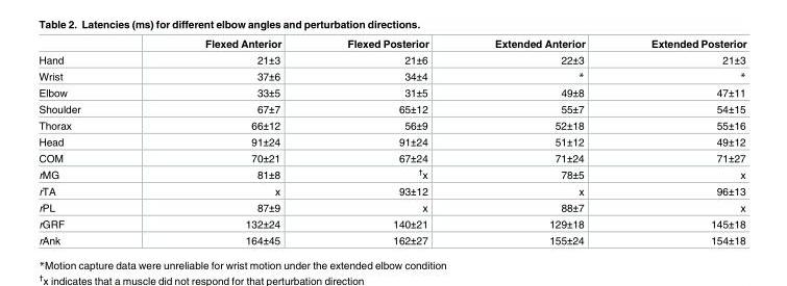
<table><thead><tr><td></td><td>Flexed Anterior</td><td>Flexed Posterior</td><td>Extended Anterior</td><td>Extended Posterior</td></tr></thead><tbody><tr><td>Hand</td><td>21±3</td><td>21±6</td><td>22±3</td><td>21±3</td></tr><tr><td>Wrist</td><td>37±6</td><td>34±4</td><td>*</td><td>*</td></tr><tr><td>Elbow</td><td>33±5</td><td>31±5</td><td>49±8</td><td>47±11</td></tr><tr><td>Shoulder</td><td>67±7</td><td>65±12</td><td>55±7</td><td>54±15</td></tr><tr><td>Thorax</td><td>66±12</td><td>56±9</td><td>52±18</td><td>55±16</td></tr><tr><td>Head</td><td>91±24</td><td>91±24</td><td>51±12</td><td>49±12</td></tr><tr><td>COM</td><td>70±21</td><td>67±24</td><td>71±24</td><td>71±27</td></tr><tr><td>rMG</td><td>81±8</td><td><sup>†</sup>x</td><td>78±5</td><td>x</td></tr><tr><td>rTA</td><td>x</td><td>93±12</td><td>x</td><td>96±13</td></tr><tr><td>rPL</td><td>87±9</td><td>x</td><td>88±7</td><td>x</td></tr><tr><td>rGRF</td><td>132±24</td><td>140±21</td><td>129±18</td><td>145±18</td></tr><tr><td>rAnk</td><td>164±45</td><td>162±27</td><td>155±24</td><td>154±18</td></tr></tbody></table>